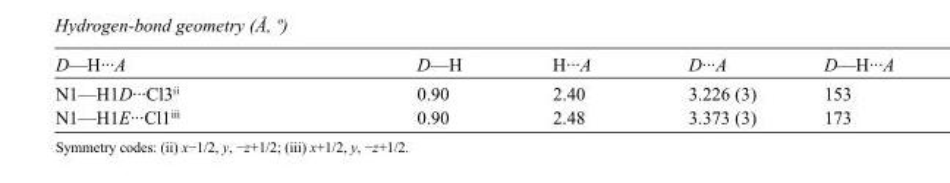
<table><tbody><tr><td>D—H···A</td><td>D—H</td><td>H···A</td><td>D···A</td><td>D—H···A</td></tr><tr><td>N1—H1D···Cl3<sup>ii</sup></td><td>0.90</td><td>2.40</td><td>3.226 (3)</td><td>153</td></tr><tr><td>N1—H1E···Cl1<sup>iii</sup></td><td>0.90</td><td>2.48</td><td>3.373 (3)</td><td>173</td></tr></tbody></table>